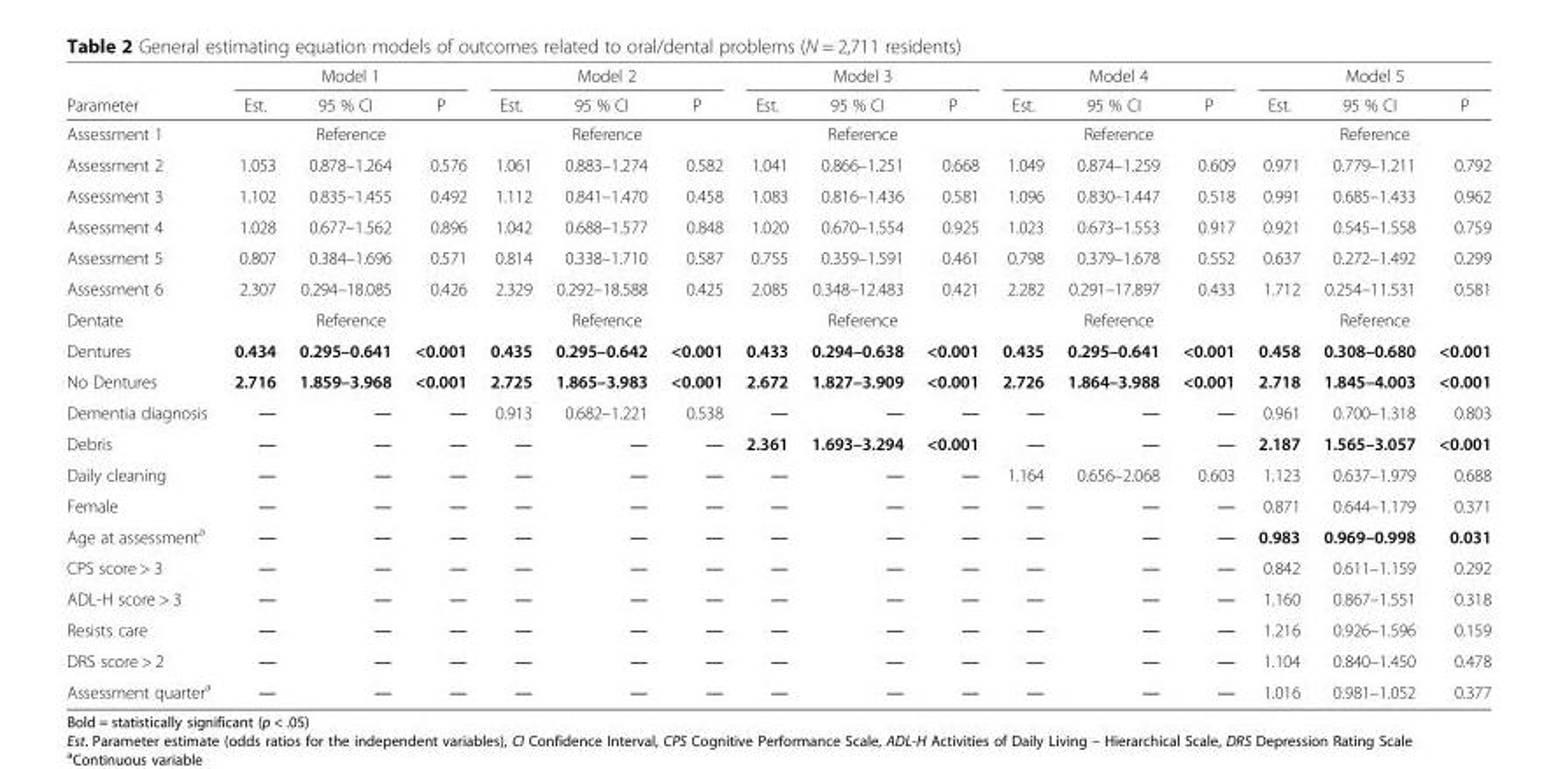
<table><thead><tr><td rowspan="2">Parameter</td><td colspan="3">Model 1</td><td colspan="3">Model 2</td><td colspan="3">Model 3</td><td colspan="3">Model 4</td><td colspan="3">Model 5</td></tr><tr><td>Est.</td><td>95 % CI</td><td>P</td><td>Est.</td><td>95 % CI</td><td>P</td><td>Est.</td><td>95 % CI</td><td>P</td><td>Est.</td><td>95 % CI</td><td>P</td><td>Est.</td><td>95 % CI</td><td>P</td></tr></thead><tbody><tr><td>Assessment 1</td><td colspan="3">Reference</td><td colspan="3">Reference</td><td colspan="3">Reference</td><td colspan="3">Reference</td><td colspan="3">Reference</td></tr><tr><td>Assessment 2</td><td>1.053</td><td>0.878–1.264</td><td>0.576</td><td>1.061</td><td>0.883–1.274</td><td>0.582</td><td>1.041</td><td>0.866–1.251</td><td>0.668</td><td>1.049</td><td>0.874–1.259</td><td>0.609</td><td>0.971</td><td>0.779–1.211</td><td>0.792</td></tr><tr><td>Assessment 3</td><td>1.102</td><td>0.835–1.455</td><td>0.492</td><td>1.112</td><td>0.841–1.470</td><td>0.458</td><td>1.083</td><td>0.816–1.436</td><td>0.581</td><td>1.096</td><td>0.830–1.447</td><td>0.518</td><td>0.991</td><td>0.685–1.433</td><td>0.962</td></tr><tr><td>Assessment 4</td><td>1.028</td><td>0.677–1.562</td><td>0.896</td><td>1.042</td><td>0.688–1.577</td><td>0.848</td><td>1.020</td><td>0.670–1.554</td><td>0.925</td><td>1.023</td><td>0.673–1.553</td><td>0.917</td><td>0.921</td><td>0.545–1.558</td><td>0.759</td></tr><tr><td>Assessment 5</td><td>0.807</td><td>0.384–1.696</td><td>0.571</td><td>0.814</td><td>0.338–1.710</td><td>0.587</td><td>0.755</td><td>0.359–1.591</td><td>0.461</td><td>0.798</td><td>0.379–1.678</td><td>0.552</td><td>0.637</td><td>0.272–1.492</td><td>0.299</td></tr><tr><td>Assessment 6</td><td>2.307</td><td>0.294–18.085</td><td>0.426</td><td>2.329</td><td>0.292–18.588</td><td>0.425</td><td>2.085</td><td>0.348–12.483</td><td>0.421</td><td>2.282</td><td>0.291–17.897</td><td>0.433</td><td>1.712</td><td>0.254–11.531</td><td>0.581</td></tr><tr><td>Dentate</td><td colspan="3">Reference</td><td colspan="3">Reference</td><td colspan="3">Reference</td><td colspan="3">Reference</td><td colspan="3">Reference</td></tr><tr><td>Dentures</td><td>0.434</td><td>0.295–0.641</td><td>&lt;0.001</td><td>0.435</td><td>0.295–0.642</td><td>&lt;0.001</td><td>0.433</td><td>0.294–0.638</td><td>&lt;0.001</td><td>0.435</td><td>0.295–0.641</td><td>&lt;0.001</td><td>0.458</td><td>0.308–0.680</td><td>&lt;0.001</td></tr><tr><td>No Dentures</td><td>2.716</td><td>1.859–3.968</td><td>&lt;0.001</td><td>2.725</td><td>1.865–3.983</td><td>&lt;0.001</td><td>2.672</td><td>1.827–3.909</td><td>&lt;0.001</td><td>2.726</td><td>1.864–3.988</td><td>&lt;0.001</td><td>2.718</td><td>1.845–4.003</td><td>&lt;0.001</td></tr><tr><td>Dementia diagnosis</td><td>―</td><td>―</td><td>―</td><td>0.913</td><td>0.682–1.221</td><td>0.538</td><td>―</td><td>―</td><td>―</td><td>―</td><td>―</td><td>―</td><td>0.961</td><td>0.700–1.318</td><td>0.803</td></tr><tr><td>Debris</td><td>―</td><td>―</td><td>―</td><td>―</td><td>―</td><td>―</td><td>2.361</td><td>1.693–3.294</td><td>&lt;0.001</td><td>―</td><td>―</td><td>―</td><td>2.187</td><td>1.565–3.057</td><td>&lt;0.001</td></tr><tr><td>Daily cleaning</td><td>―</td><td>―</td><td>―</td><td>―</td><td>―</td><td>―</td><td>―</td><td>―</td><td>―</td><td>1.164</td><td>0.656–2.068</td><td>0.603</td><td>1.123</td><td>0.637–1.979</td><td>0.688</td></tr><tr><td>Female</td><td>―</td><td>―</td><td>―</td><td>―</td><td>―</td><td>―</td><td>―</td><td>―</td><td>―</td><td>―</td><td>―</td><td>―</td><td>0.871</td><td>0.644–1.179</td><td>0.371</td></tr><tr><td>Age at assessment<sup>a</sup></td><td>―</td><td>―</td><td>―</td><td>―</td><td>―</td><td>―</td><td>―</td><td>―</td><td>―</td><td>―</td><td>―</td><td>―</td><td>0.983</td><td>0.969–0.998</td><td>0.031</td></tr><tr><td>CPS score &gt; 3</td><td>―</td><td>―</td><td>―</td><td>―</td><td>―</td><td>―</td><td>―</td><td>―</td><td>―</td><td>―</td><td>―</td><td>―</td><td>0.842</td><td>0.611–1.159</td><td>0.292</td></tr><tr><td>ADL-H score &gt; 3</td><td>―</td><td>―</td><td>―</td><td>―</td><td>―</td><td>―</td><td>―</td><td>―</td><td>―</td><td>―</td><td>―</td><td>―</td><td>1.160</td><td>0.867–1.551</td><td>0.318</td></tr><tr><td>Resists care</td><td>―</td><td>―</td><td>―</td><td>―</td><td>―</td><td>―</td><td>―</td><td>―</td><td>―</td><td>―</td><td>―</td><td>―</td><td>1.216</td><td>0.926–1.596</td><td>0.159</td></tr><tr><td>DRS score &gt; 2</td><td>―</td><td>―</td><td>―</td><td>―</td><td>―</td><td>―</td><td>―</td><td>―</td><td>―</td><td>―</td><td>―</td><td>―</td><td>1.104</td><td>0.840–1.450</td><td>0.478</td></tr><tr><td>Assessment quarter<sup>a</sup></td><td>―</td><td>―</td><td>―</td><td>―</td><td>―</td><td>―</td><td>―</td><td>―</td><td>―</td><td>―</td><td>―</td><td>―</td><td>1.016</td><td>0.981–1.052</td><td>0.377</td></tr></tbody></table>